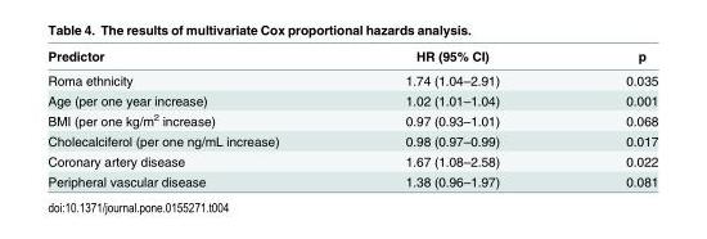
<table><thead><tr><td>Predictor</td><td>HR (95% CI)</td><td>p</td></tr></thead><tbody><tr><td>Roma ethnicity</td><td>1.74 (1.04–2.91)</td><td>0.035</td></tr><tr><td>Age (per one year increase)</td><td>1.02 (1.01–1.04)</td><td>0.001</td></tr><tr><td>BMI (per one kg/m<sup>2</sup> increase)</td><td>0.97 (0.93–1.01)</td><td>0.068</td></tr><tr><td>Cholecalciferol (per one ng/mL increase)</td><td>0.98 (0.97–0.99)</td><td>0.017</td></tr><tr><td>Coronary artery disease</td><td>1.67 (1.08–2.58)</td><td>0.022</td></tr><tr><td>Peripheral vascular disease</td><td>1.38 (0.96–1.97)</td><td>0.081</td></tr></tbody></table>